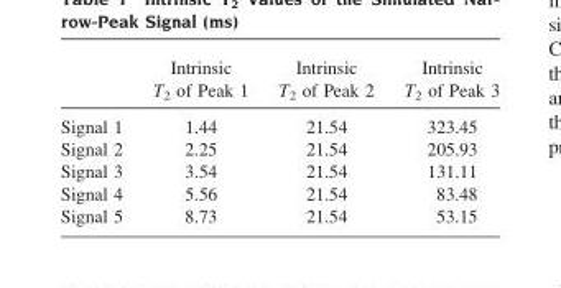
<table><thead><tr><td></td><td>Intrinsic T<sub>2</sub> of Peak 1</td><td>Intrinsic T<sub>2</sub> of Peak 2</td><td>Intrinsic T<sub>2</sub> of Peak 3</td></tr></thead><tbody><tr><td>Signal 1</td><td>1.44</td><td>21.54</td><td>323.45</td></tr><tr><td>Signal 2</td><td>2.25</td><td>21.54</td><td>205.93</td></tr><tr><td>Signal 3</td><td>3.54</td><td>21.54</td><td>131.11</td></tr><tr><td>Signal 4</td><td>5.56</td><td>21.54</td><td>83.48</td></tr><tr><td>Signal 5</td><td>8.73</td><td>21.54</td><td>53.15</td></tr></tbody></table>